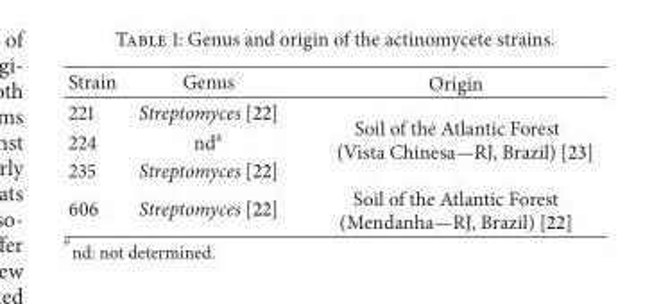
<table><thead><tr><td>Strain</td><td>Genus</td><td>Origin</td></tr></thead><tbody><tr><td>221</td><td>Streptomyces [22]</td><td rowspan="3">Soil of the Atlantic Forest (Vista Chinesa—RJ, Brazil) [23]</td></tr><tr><td>224</td><td>nd<sup>a</sup></td></tr><tr><td>235</td><td>Streptomyces [22]</td></tr><tr><td>606</td><td>Streptomyces [22]</td><td>Soil of the Atlantic Forest (Mendanha—RJ, Brazil) [22]</td></tr></tbody></table>